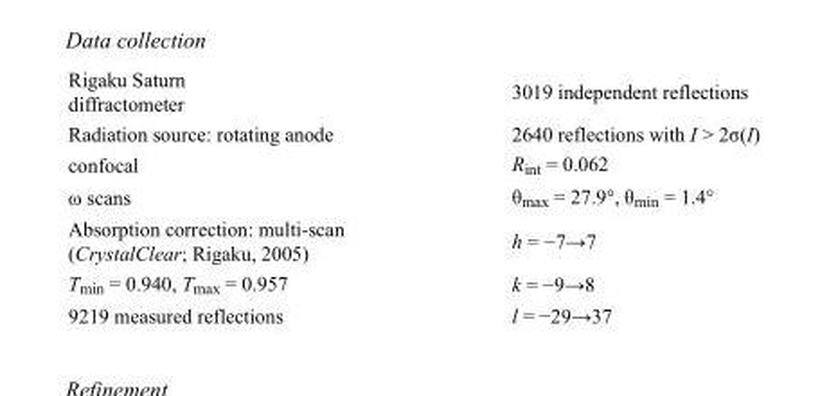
<table><tbody><tr><td>Rigaku Saturn diffractometer</td><td>3019 independent reflections</td></tr><tr><td>Radiation source: rotating anode</td><td>2640 reflections with I &gt; 2σ(I)</td></tr><tr><td>confocal</td><td>R<sub>int</sub> = 0.062</td></tr><tr><td>ω scans</td><td>θ<sub>max</sub> = 27.9°, θ<sub>min</sub> = 1.4°</td></tr><tr><td>Absorption correction: multi-scan (CrystalClear; Rigaku, 2005)</td><td>h = −7→7</td></tr><tr><td>T<sub>min</sub> = 0.940, T<sub>max</sub> = 0.957</td><td>k = −9→8</td></tr><tr><td>9219 measured reflections</td><td>l = −29→37</td></tr></tbody></table>